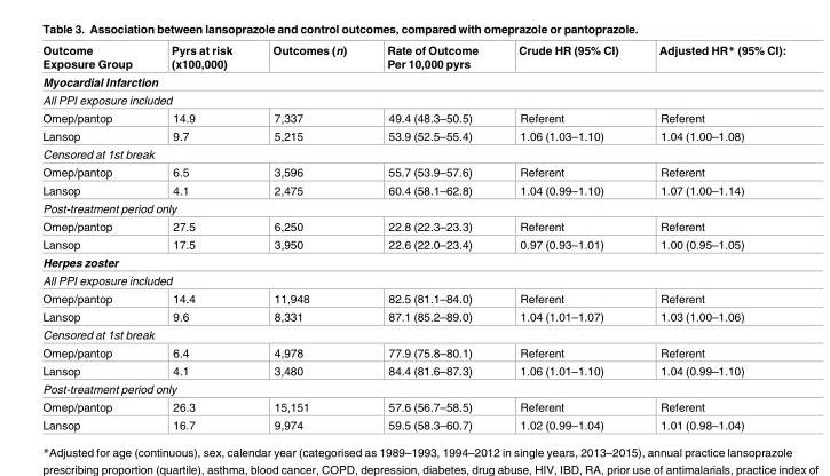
<table><thead><tr><td>Outcome Exposure Group</td><td>Pyrs at risk (x100,000)</td><td>Outcomes (n)</td><td>Rate of Outcome Per 10,000 pyrs</td><td>Crude HR (95% CI)</td><td>Adjusted HR* (95% CI):</td></tr></thead><tbody><tr><td colspan="6">Myocardial Infarction</td></tr><tr><td colspan="6">All PPI exposure included</td></tr><tr><td>Omep/pantop</td><td>14.9</td><td>7,337</td><td>49.4 (48.3–50.5)</td><td>Referent</td><td>Referent</td></tr><tr><td>Lansop</td><td>9.7</td><td>5,215</td><td>53.9 (52.5–55.4)</td><td>1.06 (1.03–1.10)</td><td>1.04 (1.00–1.08)</td></tr><tr><td colspan="6">Censored at 1st break</td></tr><tr><td>Omep/pantop</td><td>6.5</td><td>3,596</td><td>55.7 (53.9–57.6)</td><td>Referent</td><td>Referent</td></tr><tr><td>Lansop</td><td>4.1</td><td>2,475</td><td>60.4 (58.1–62.8)</td><td>1.04 (0.99–1.10)</td><td>1.07 (1.00–1.14)</td></tr><tr><td colspan="6">Post-treatment period only</td></tr><tr><td>Omep/pantop</td><td>27.5</td><td>6,250</td><td>22.8 (22.3–23.3)</td><td>Referent</td><td>Referent</td></tr><tr><td>Lansop</td><td>17.5</td><td>3,950</td><td>22.6 (22.0–23.4)</td><td>0.97 (0.93–1.01)</td><td>1.00 (0.95–1.05)</td></tr><tr><td colspan="6">Herpes zoster</td></tr><tr><td colspan="6">All PPI exposure included</td></tr><tr><td>Omep/pantop</td><td>14.4</td><td>11,948</td><td>82.5 (81.1–84.0)</td><td>Referent</td><td>Referent</td></tr><tr><td>Lansop</td><td>9.6</td><td>8,331</td><td>87.1 (85.2–89.0)</td><td>1.04 (1.01–1.07)</td><td>1.03 (1.00–1.06)</td></tr><tr><td colspan="6">Censored at 1st break</td></tr><tr><td>Omep/pantop</td><td>6.4</td><td>4,978</td><td>77.9 (75.8–80.1)</td><td>Referent</td><td>Referent</td></tr><tr><td>Lansop</td><td>4.1</td><td>3,480</td><td>84.4 (81.6–87.3)</td><td>1.06 (1.01–1.10)</td><td>1.04 (0.99–1.10)</td></tr><tr><td colspan="6">Post-treatment period only</td></tr><tr><td>Omep/pantop</td><td>26.3</td><td>15,151</td><td>57.6 (56.7–58.5)</td><td>Referent</td><td>Referent</td></tr><tr><td>Lansop</td><td>16.7</td><td>9,974</td><td>59.5 (58.3–60.7)</td><td>1.02 (0.99–1.04)</td><td>1.01 (0.98–1.04)</td></tr></tbody></table>